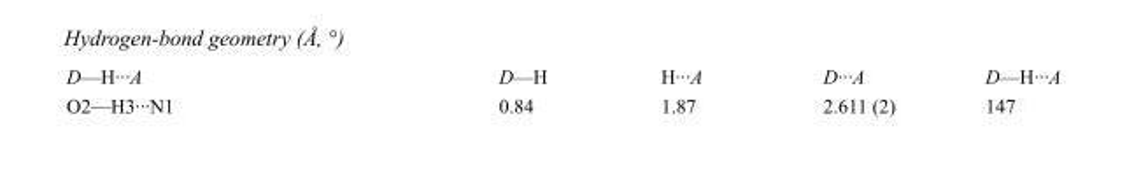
<table><tbody><tr><td>D—H···A</td><td>D—H</td><td>H···A</td><td>D···A</td><td>D—H···A</td></tr><tr><td>O2—H3···N1</td><td>0.84</td><td>1.87</td><td>2.611 (2)</td><td>147</td></tr></tbody></table>